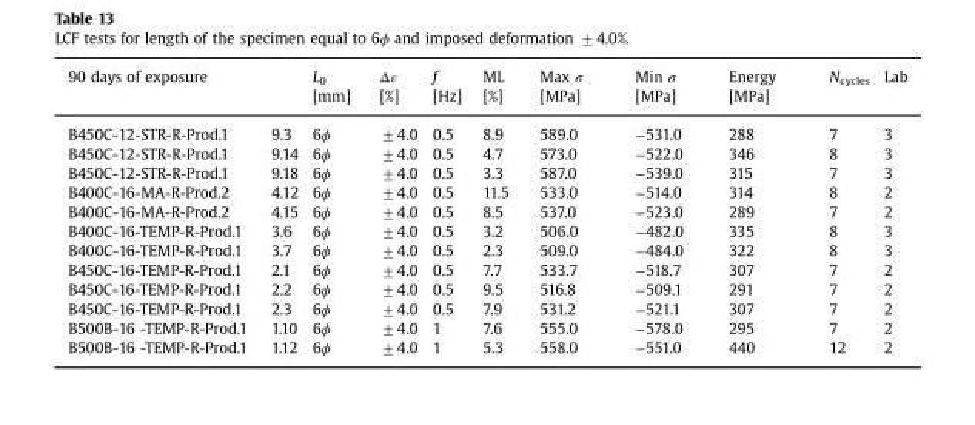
<table><thead><tr><td>90 days of exposure</td><td></td><td>L<sub>0</sub> [mm]</td><td>Δε [%]</td><td>f [Hz]</td><td>ML [%]</td><td>Max σ [MPa]</td><td>Min σ [MPa]</td><td>Energy [MPa]</td><td>N<sub>cycles</sub></td><td>Lab</td></tr></thead><tbody><tr><td>B450C-12-STR-R-Prod.1</td><td>9.3</td><td>6ϕ</td><td>±4.0</td><td>0.5</td><td>8.9</td><td>589.0</td><td>−531.0</td><td>288</td><td>7</td><td>3</td></tr><tr><td>B450C-12-STR-R-Prod.1</td><td>9.14</td><td>6ϕ</td><td>±4.0</td><td>0.5</td><td>4.7</td><td>573.0</td><td>−522.0</td><td>346</td><td>8</td><td>3</td></tr><tr><td>B450C-12-STR-R-Prod.1</td><td>9.18</td><td>6ϕ</td><td>±4.0</td><td>0.5</td><td>3.3</td><td>587.0</td><td>−539.0</td><td>315</td><td>7</td><td>3</td></tr><tr><td>B400C-16-MA-R-Prod.2</td><td>4.12</td><td>6ϕ</td><td>±4.0</td><td>0.5</td><td>11.5</td><td>533.0</td><td>−514.0</td><td>314</td><td>8</td><td>2</td></tr><tr><td>B400C-16-MA-R-Prod.2</td><td>4.15</td><td>6ϕ</td><td>±4.0</td><td>0.5</td><td>8.5</td><td>537.0</td><td>−523.0</td><td>289</td><td>7</td><td>2</td></tr><tr><td>B400C-16-TEMP-R-Prod.1</td><td>3.6</td><td>6ϕ</td><td>±4.0</td><td>0.5</td><td>3.2</td><td>506.0</td><td>−482.0</td><td>335</td><td>8</td><td>3</td></tr><tr><td>B400C-16-TEMP-R-Prod.1</td><td>3.7</td><td>6ϕ</td><td>±4.0</td><td>0.5</td><td>2.3</td><td>509.0</td><td>−484.0</td><td>322</td><td>8</td><td>3</td></tr><tr><td>B450C-16-TEMP-R-Prod.1</td><td>2.1</td><td>6ϕ</td><td>±4.0</td><td>0.5</td><td>7.7</td><td>533.7</td><td>−518.7</td><td>307</td><td>7</td><td>2</td></tr><tr><td>B450C-16-TEMP-R-Prod.1</td><td>2.2</td><td>6ϕ</td><td>±4.0</td><td>0.5</td><td>9.5</td><td>516.8</td><td>−509.1</td><td>291</td><td>7</td><td>2</td></tr><tr><td>B450C-16-TEMP-R-Prod.1</td><td>2.3</td><td>6ϕ</td><td>±4.0</td><td>0.5</td><td>7.9</td><td>531.2</td><td>−521.1</td><td>307</td><td>7</td><td>2</td></tr><tr><td>B500B-16 -TEMP-R-Prod.1</td><td>1.10</td><td>6ϕ</td><td>±4.0</td><td>1</td><td>7.6</td><td>555.0</td><td>−578.0</td><td>295</td><td>7</td><td>2</td></tr><tr><td>B500B-16 -TEMP-R-Prod.1</td><td>1.12</td><td>6ϕ</td><td>±4.0</td><td>1</td><td>5.3</td><td>558.0</td><td>−551.0</td><td>440</td><td>12</td><td>2</td></tr></tbody></table>